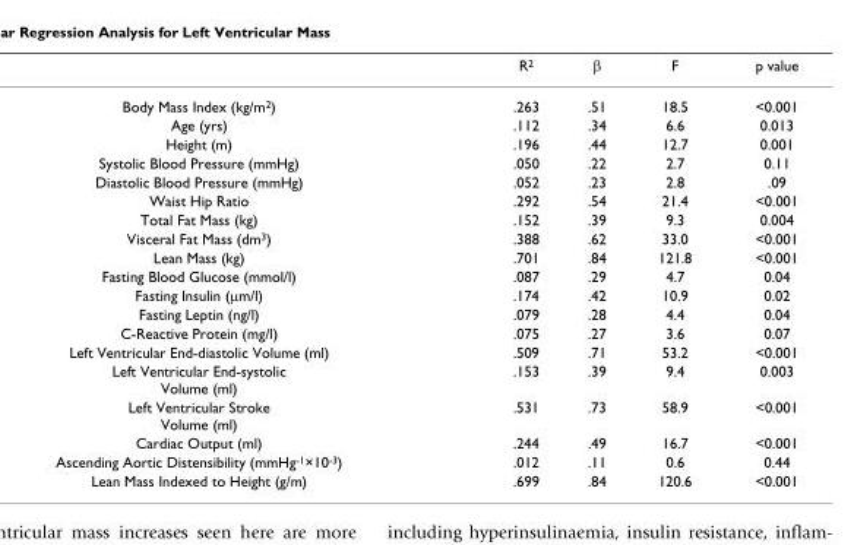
<table><thead><tr><td></td><td>R<sup>2</sup></td><td>β</td><td>F</td><td>p value</td></tr></thead><tbody><tr><td>Body Mass Index (kg/m<sup>2</sup>)</td><td>.263</td><td>.51</td><td>18.5</td><td>&lt;0.001</td></tr><tr><td>Age (yrs)</td><td>.112</td><td>.34</td><td>6.6</td><td>0.013</td></tr><tr><td>Height (m)</td><td>.196</td><td>.44</td><td>12.7</td><td>0.001</td></tr><tr><td>Systolic Blood Pressure (mmHg)</td><td>.050</td><td>.22</td><td>2.7</td><td>0.11</td></tr><tr><td>Diastolic Blood Pressure (mmHg)</td><td>.052</td><td>.23</td><td>2.8</td><td>.09</td></tr><tr><td>Waist Hip Ratio</td><td>.292</td><td>.54</td><td>21.4</td><td>&lt;0.001</td></tr><tr><td>Total Fat Mass (kg)</td><td>.152</td><td>.39</td><td>9.3</td><td>0.004</td></tr><tr><td>Visceral Fat Mass (dm<sup>3</sup>)</td><td>.388</td><td>.62</td><td>33.0</td><td>&lt;0.001</td></tr><tr><td>Lean Mass (kg)</td><td>.701</td><td>.84</td><td>121.8</td><td>&lt;0.001</td></tr><tr><td>Fasting Blood Glucose (mmol/l)</td><td>.087</td><td>.29</td><td>4.7</td><td>0.04</td></tr><tr><td>Fasting Insulin (μm/l)</td><td>.174</td><td>.42</td><td>10.9</td><td>0.02</td></tr><tr><td>Fasting Leptin (ng/l)</td><td>.079</td><td>.28</td><td>4.4</td><td>0.04</td></tr><tr><td>C-Reactive Protein (mg/l)</td><td>.075</td><td>.27</td><td>3.6</td><td>0.07</td></tr><tr><td>Left Ventricular End-diastolic Volume (ml)</td><td>.509</td><td>.71</td><td>53.2</td><td>&lt;0.001</td></tr><tr><td>Left Ventricular End-systolic Volume (ml)</td><td>.153</td><td>.39</td><td>9.4</td><td>0.003</td></tr><tr><td>Left Ventricular Stroke Volume (ml)</td><td>.531</td><td>.73</td><td>58.9</td><td>&lt;0.001</td></tr><tr><td>Cardiac Output (ml)</td><td>.244</td><td>.49</td><td>16.7</td><td>&lt;0.001</td></tr><tr><td>Ascending Aortic Distensibility (mmHg<sup>-1</sup>×10<sup>-3</sup>)</td><td>.012</td><td>.11</td><td>0.6</td><td>0.44</td></tr><tr><td>Lean Mass Indexed to Height (g/m)</td><td>.699</td><td>.84</td><td>120.6</td><td>&lt;0.001</td></tr></tbody></table>